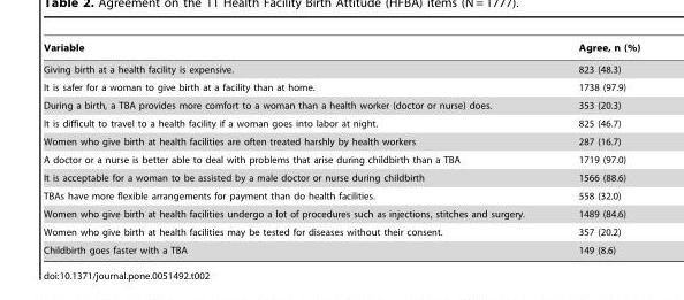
<table><thead><tr><td>Variable</td><td>Agree, n (%)</td></tr></thead><tbody><tr><td>Giving birth at a health facility is expensive.</td><td>823 (48.3)</td></tr><tr><td>It is safer for a woman to give birth at a facility than at home.</td><td>1738 (97.9)</td></tr><tr><td>During a birth, a TBA provides more comfort to a woman than a health worker (doctor or nurse) does.</td><td>353 (20.3)</td></tr><tr><td>It is difficult to travel to a health facility if a woman goes into labor at night.</td><td>825 (46.7)</td></tr><tr><td>Women who give birth at health facilities are often treated harshly by health workers</td><td>287 (16.7)</td></tr><tr><td>A doctor or a nurse is better able to deal with problems that arise during childbirth than a TBA</td><td>1719 (97.0)</td></tr><tr><td>It is acceptable for a woman to be assisted by a male doctor or nurse during childbirth</td><td>1566 (88.6)</td></tr><tr><td>TBAs have more flexible arrangements for payment than do health facilities.</td><td>558 (32.0)</td></tr><tr><td>Women who give birth at health facilities undergo a lot of procedures such as injections, stitches and surgery.</td><td>1489 (84.6)</td></tr><tr><td>Women who give birth at health facilities may be tested for diseases without their consent.</td><td>357 (20.2)</td></tr><tr><td>Childbirth goes faster with a TBA</td><td>149 (8.6)</td></tr></tbody></table>